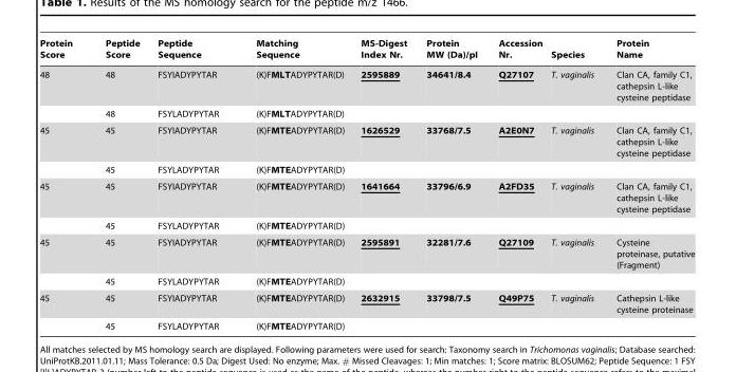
<table><thead><tr><td>Protein Score</td><td>Peptide Score</td><td>Peptide Sequence</td><td>Matching Sequence</td><td>MS-Digest Index Nr.</td><td>Protein MW (Da)/pI</td><td>Accession Nr.</td><td>Species</td><td>Protein Name</td></tr></thead><tbody><tr><td rowspan="2">48</td><td>48</td><td>FSYIADYPYTAR</td><td>(K)FMLTADYPYTAR(D)</td><td>2595889</td><td>34641/8.4</td><td>Q27107</td><td>T. vaginalis</td><td>Clan CA, family C1, cathepsin L-like cysteine peptidase</td></tr><tr><td>48</td><td>FSYLADYPYTAR</td><td>(K)FMLTADYPYTAR(D)</td><td></td><td></td><td></td><td></td><td></td></tr><tr><td rowspan="2">45</td><td>45</td><td>FSYIADYPYTAR</td><td>(K)FMTEADYPYTAR(D)</td><td>1626529</td><td>33768/7.5</td><td>A2E0N7</td><td>T. vaginalis</td><td>Clan CA, family C1, cathepsin L-like cysteine peptidase</td></tr><tr><td>45</td><td>FSYLADYPYTAR</td><td>(K)FMTEADYPYTAR(D)</td><td></td><td></td><td></td><td></td><td></td></tr><tr><td rowspan="2">45</td><td>45</td><td>FSYIADYPYTAR</td><td>(K)FMTEADYPYTAR(D)</td><td>1641664</td><td>33796/6.9</td><td>A2FD35</td><td>T. vaginalis</td><td>Clan CA, family C1, cathepsin L-like cysteine peptidase</td></tr><tr><td>45</td><td>FSYLADYPYTAR</td><td>(K)FMTEADYPYTAR(D)</td><td></td><td></td><td></td><td></td><td></td></tr><tr><td rowspan="2">45</td><td>45</td><td>FSYIADYPYTAR</td><td>(K)FMTEADYPYTAR(D)</td><td>2595891</td><td>32281/7.6</td><td>Q27109</td><td>T. vaginalis</td><td>Cysteine proteinase, putative (Fragment)</td></tr><tr><td>45</td><td>FSYLADYPYTAR</td><td>(K)FMTEADYPYTAR(D)</td><td></td><td></td><td></td><td></td><td></td></tr><tr><td rowspan="2">45</td><td>45</td><td>FSYIADYPYTAR</td><td>(K)FMTEADYPYTAR(D)</td><td>2632915</td><td>33798/7.5</td><td>Q49P75</td><td>T. vaginalis</td><td>Cathepsin L-like cysteine proteinase</td></tr><tr><td>45</td><td>FSYLADYPYTAR</td><td>(K)FMTEADYPYTAR(D)</td><td></td><td></td><td></td><td></td><td></td></tr></tbody></table>